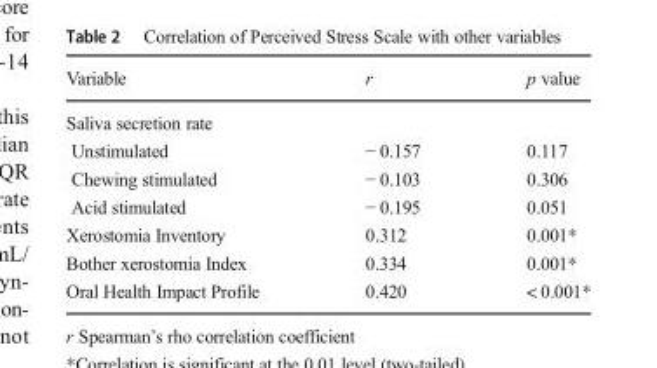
<table><thead><tr><td>Variable</td><td>r</td><td>p value</td></tr></thead><tbody><tr><td colspan="3">Saliva secretion rate</td></tr><tr><td>Unstimulated</td><td>− 0.157</td><td>0.117</td></tr><tr><td>Chewing stimulated</td><td>− 0.103</td><td>0.306</td></tr><tr><td>Acid stimulated</td><td>− 0.195</td><td>0.051</td></tr><tr><td>Xerostomia Inventory</td><td>0.312</td><td>0.001*</td></tr><tr><td>Bother xerostomia Index</td><td>0.334</td><td>0.001*</td></tr><tr><td>Oral Health Impact Profile</td><td>0.420</td><td>&lt; 0.001*</td></tr></tbody></table>